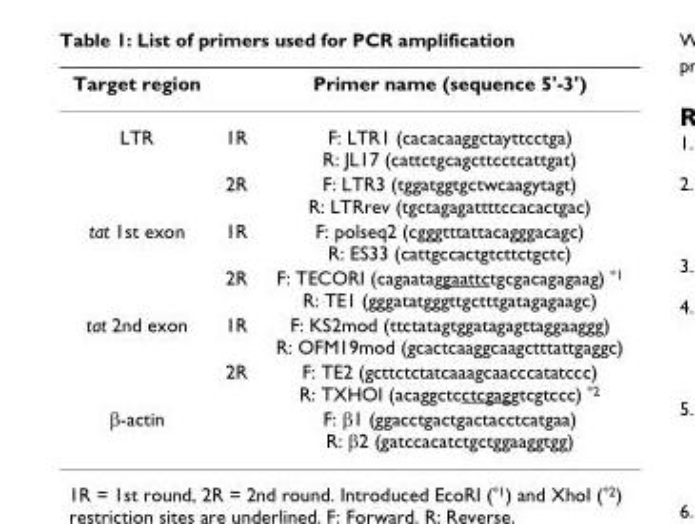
<table><thead><tr><td>Target region</td><td></td><td>Primer name (sequence 5&#x27;-3&#x27;)</td></tr></thead><tbody><tr><td rowspan="2">LTR</td><td>1R</td><td>F: LTR1 (cacacaaggctayttcctga) R: JL17 (cattctgcagcttcctcattgat)</td></tr><tr><td>2R</td><td>F: LTR3 (tggatggtgctwcaagytagt) R: LTRrev (tgctagagattttccacactgac)</td></tr><tr><td rowspan="2">tat 1st exon</td><td>1R</td><td>F: polseq2 (cgggtttattacagggacagc) R: ES33 (cattgccactgtcttctgctc)</td></tr><tr><td>2R</td><td>F: TECORI (cagaataggaattctgcgacagagaag) <sup>*1</sup> R: TE1 (gggatatgggttgctttgatagagaagc)</td></tr><tr><td rowspan="2">tat 2nd exon</td><td>1R</td><td>F: KS2mod (ttctatagtggatagagttaggaaggg) R: OFM19mod (gcactcaaggcaagctttattgaggc)</td></tr><tr><td>2R</td><td>F: TE2 (gcttctctatcaaagcaacccatatccc) R: TXHOI (acaggctcctcgaggtcgtccc) <sup>*2</sup></td></tr><tr><td>β-actin</td><td></td><td>F: β1 (ggacctgactgactacctcatgaa) R: β2 (gatccacatctgctggaaggtgg)</td></tr></tbody></table>